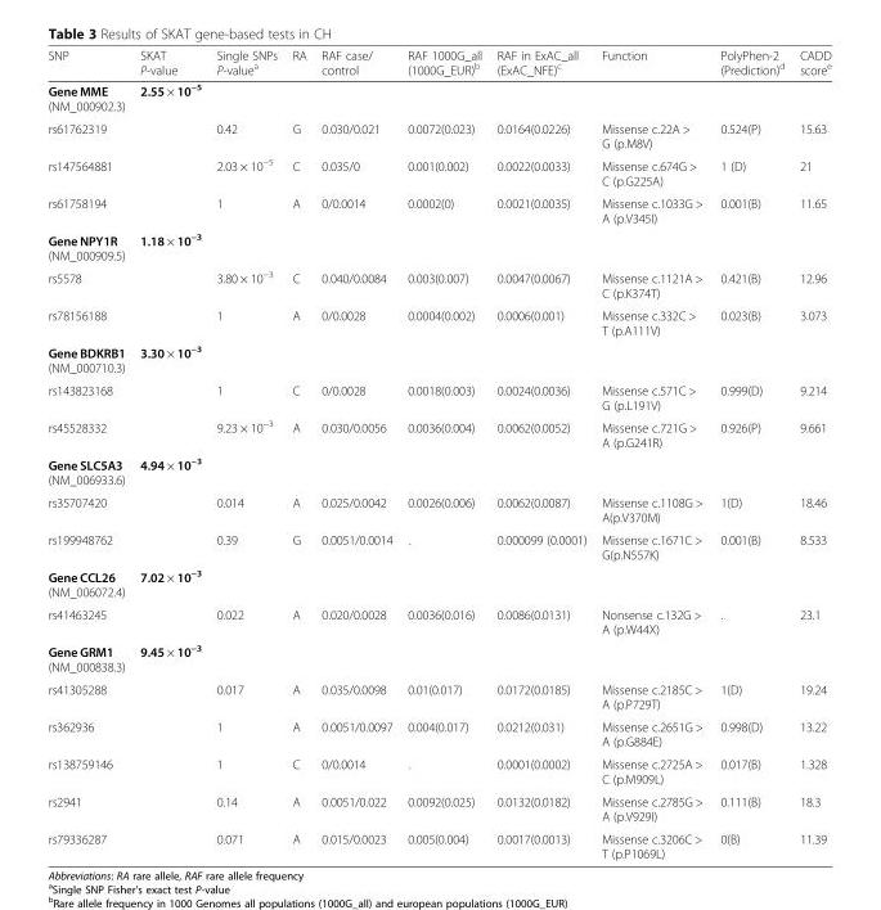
<table><thead><tr><td>SNP</td><td>SKAT P-value</td><td>Single SNPs P-value<sup>a</sup></td><td>RA</td><td>RAF case/ control</td><td>RAF 1000G_all (1000G_EUR)<sup>b</sup></td><td>RAF in ExAC_all (ExAC_NFE)<sup>c</sup></td><td>Function</td><td>PolyPhen-2 (Prediction)<sup>d</sup></td><td>CADD score<sup>e</sup></td></tr></thead><tbody><tr><td>Gene MME (NM_000902.3)</td><td>2.55 × 10<sup>−5</sup></td><td></td><td></td><td></td><td></td><td></td><td></td><td></td><td></td></tr><tr><td>rs61762319</td><td></td><td>0.42</td><td>G</td><td>0.030/0.021</td><td>0.0072(0.023)</td><td>0.0164(0.0226)</td><td>Missense c.22A &gt; G (p.M8V)</td><td>0.524(P)</td><td>15.63</td></tr><tr><td>rs147564881</td><td></td><td>2.03 × 10<sup>−5</sup></td><td>C</td><td>0.035/0</td><td>0.001(0.002)</td><td>0.0022(0.0033)</td><td>Missense c.674G &gt; C (p.G225A)</td><td>1 (D)</td><td>21</td></tr><tr><td>rs61758194</td><td></td><td>1</td><td>A</td><td>0/0.0014</td><td>0.0002(0)</td><td>0.0021(0.0035)</td><td>Missense c.1033G &gt; A (p.V345I)</td><td>0.001(B)</td><td>11.65</td></tr><tr><td>Gene NPY1R (NM_000909.5)</td><td>1.18 × 10<sup>−3</sup></td><td></td><td></td><td></td><td></td><td></td><td></td><td></td><td></td></tr><tr><td>rs5578</td><td></td><td>3.80 × 10<sup>−3</sup></td><td>C</td><td>0.040/0.0084</td><td>0.003(0.007)</td><td>0.0047(0.0067)</td><td>Missense c.1121A &gt; C (p.K374T)</td><td>0.421(B)</td><td>12.96</td></tr><tr><td>rs78156188</td><td></td><td>1</td><td>A</td><td>0/0.0028</td><td>0.0004(0.002)</td><td>0.0006(0.001)</td><td>Missense c.332C &gt; T (p.A111V)</td><td>0.023(B)</td><td>3.073</td></tr><tr><td>Gene BDKRB1 (NM_000710.3)</td><td>3.30 × 10<sup>−3</sup></td><td></td><td></td><td></td><td></td><td></td><td></td><td></td><td></td></tr><tr><td>rs143823168</td><td></td><td>1</td><td>C</td><td>0/0.0028</td><td>0.0018(0.003)</td><td>0.0024(0.0036)</td><td>Missense c.571C &gt; G (p.L191V)</td><td>0.999(D)</td><td>9.214</td></tr><tr><td>rs45528332</td><td></td><td>9.23 × 10<sup>−3</sup></td><td>A</td><td>0.030/0.0056</td><td>0.0036(0.004)</td><td>0.0062(0.0052)</td><td>Missense c.721G &gt; A (p.G241R)</td><td>0.926(P)</td><td>9.661</td></tr><tr><td>Gene SLC5A3 (NM_006933.6)</td><td>4.94 × 10<sup>−3</sup></td><td></td><td></td><td></td><td></td><td></td><td></td><td></td><td></td></tr><tr><td>rs35707420</td><td></td><td>0.014</td><td>A</td><td>0.025/0.0042</td><td>0.0026(0.006)</td><td>0.0062(0.0087)</td><td>Missense c.1108G &gt; A(p.V370M)</td><td>1(D)</td><td>18.46</td></tr><tr><td>rs199948762</td><td></td><td>0.39</td><td>G</td><td>0.0051/0.0014</td><td>.</td><td>0.000099 (0.0001)</td><td>Missense c.1671C &gt; G(p.N557K)</td><td>0.001(B)</td><td>8.533</td></tr><tr><td>Gene CCL26 (NM_006072.4)</td><td>7.02 × 10<sup>−3</sup></td><td></td><td></td><td></td><td></td><td></td><td></td><td></td><td></td></tr><tr><td>rs41463245</td><td></td><td>0.022</td><td>A</td><td>0.020/0.0028</td><td>0.0036(0.016)</td><td>0.0086(0.0131)</td><td>Nonsense c.132G &gt; A (p.W44X)</td><td>.</td><td>23.1</td></tr><tr><td>Gene GRM1 (NM_000838.3)</td><td>9.45 × 10<sup>−3</sup></td><td></td><td></td><td></td><td></td><td></td><td></td><td></td><td></td></tr><tr><td>rs41305288</td><td></td><td>0.017</td><td>A</td><td>0.035/0.0098</td><td>0.01(0.017)</td><td>0.0172(0.0185)</td><td>Missense c.2185C &gt; A (p.P729T)</td><td>1(D)</td><td>19.24</td></tr><tr><td>rs362936</td><td></td><td>1</td><td>A</td><td>0.0051/0.0097</td><td>0.004(0.017)</td><td>0.0212(0.031)</td><td>Missense c.2651G &gt; A (p.G884E)</td><td>0.998(D)</td><td>13.22</td></tr><tr><td>rs138759146</td><td></td><td>1</td><td>C</td><td>0/0.0014</td><td>.</td><td>0.0001(0.0002)</td><td>Missense c.2725A &gt; C (p.M909L)</td><td>0.017(B)</td><td>1.328</td></tr><tr><td>rs2941</td><td></td><td>0.14</td><td>A</td><td>0.0051/0.022</td><td>0.0092(0.025)</td><td>0.0132(0.0182)</td><td>Missense c.2785G &gt; A (p.V929I)</td><td>0.111(B)</td><td>18.3</td></tr><tr><td>rs79336287</td><td></td><td>0.071</td><td>A</td><td>0.015/0.0023</td><td>0.005(0.004)</td><td>0.0017(0.0013)</td><td>Missense c.3206C &gt; T (p.P1069L)</td><td>0(B)</td><td>11.39</td></tr></tbody></table>